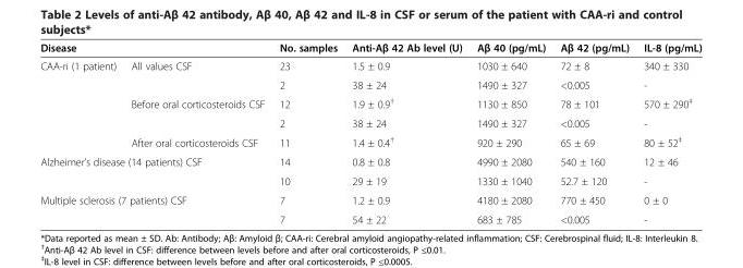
<table><thead><tr><td>Disease</td><td></td><td>No. samples</td><td>Anti-Aβ 42 Ab level (U)</td><td>Aβ 40 (pg/mL)</td><td>Aβ 42 (pg/mL)</td><td>IL-8 (pg/mL)</td></tr></thead><tbody><tr><td rowspan="5">CAA-ri (1 patient)</td><td rowspan="2">All values CSF</td><td>23</td><td>1.5 ± 0.9</td><td>1030 ± 640</td><td>72 ± 8</td><td>340 ± 330</td></tr><tr><td>2</td><td>38 ± 24</td><td>1490 ± 327</td><td>&lt;0.005</td><td>-</td></tr><tr><td rowspan="2">Before oral corticosteroids CSF</td><td>12</td><td>1.9 ± 0.9<sup>†</sup></td><td>1130 ± 850</td><td>78 ± 101</td><td>570 ± 290<sup>‡</sup></td></tr><tr><td>2</td><td>38 ± 24</td><td>1490 ± 327</td><td>&lt;0.005</td><td>-</td></tr><tr><td>After oral corticosteroids CSF</td><td>11</td><td>1.4 ± 0.4<sup>†</sup></td><td>920 ± 290</td><td>65 ± 69</td><td>80 ± 52<sup>‡</sup></td></tr><tr><td rowspan="2" colspan="2">Alzheimer’s disease (14 patients) CSF</td><td>14</td><td>0.8 ± 0.8</td><td>4990 ± 2080</td><td>540 ± 160</td><td>12 ± 46</td></tr><tr><td>10</td><td>29 ± 19</td><td>1330 ± 1040</td><td>52.7 ± 120</td><td>-</td></tr><tr><td rowspan="2" colspan="2">Multiple sclerosis (7 patients) CSF</td><td>7</td><td>1.2 ± 0.9</td><td>4180 ± 2080</td><td>770 ± 450</td><td>0 ± 0</td></tr><tr><td>7</td><td>54 ± 22</td><td>683 ± 785</td><td>&lt;0.005</td><td>-</td></tr></tbody></table>